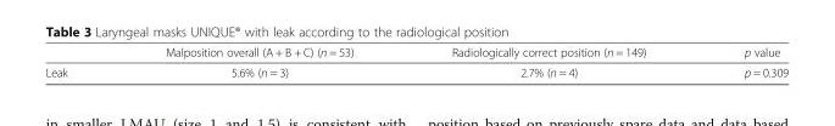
<table><thead><tr><td></td><td>Malposition overall (A + B + C) (n = 53)</td><td>Radiologically correct position (n = 149)</td><td>p value</td></tr></thead><tbody><tr><td>Leak</td><td>5.6% (n = 3)</td><td>2.7% (n = 4)</td><td>p = 0.309</td></tr></tbody></table>